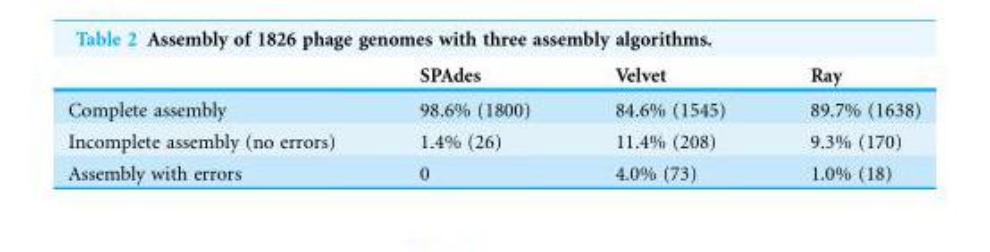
<table><thead><tr><td></td><td>SPAdes</td><td>Velvet</td><td>Ray</td></tr></thead><tbody><tr><td>Complete assembly</td><td>98.6% (1800)</td><td>84.6% (1545)</td><td>89.7% (1638)</td></tr><tr><td>Incomplete assembly (no errors)</td><td>1.4% (26)</td><td>11.4% (208)</td><td>9.3% (170)</td></tr><tr><td>Assembly with errors</td><td>0</td><td>4.0% (73)</td><td>1.0% (18)</td></tr></tbody></table>